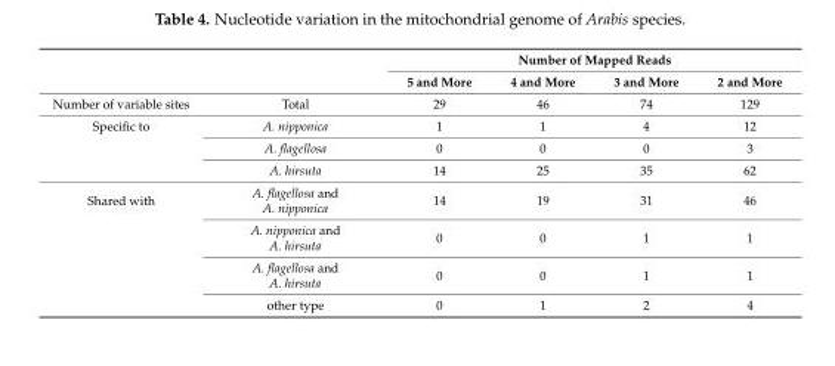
<table><thead><tr><td rowspan="2"></td><td rowspan="2"></td><td colspan="4">Number of Mapped Reads</td></tr><tr><td>5 and More</td><td>4 and More</td><td>3 and More</td><td>2 and More</td></tr></thead><tbody><tr><td>Number of variable sites</td><td>Total</td><td>29</td><td>46</td><td>74</td><td>129</td></tr><tr><td rowspan="3">Specific to</td><td>A. nipponica</td><td>1</td><td>1</td><td>4</td><td>12</td></tr><tr><td>A. flagellosa</td><td>0</td><td>0</td><td>0</td><td>3</td></tr><tr><td>A. hirsuta</td><td>14</td><td>25</td><td>35</td><td>62</td></tr><tr><td rowspan="4">Shared with</td><td>A. flagellosa and A. nipponica</td><td>14</td><td>19</td><td>31</td><td>46</td></tr><tr><td>A. nipponica and A. hirsuta</td><td>0</td><td>0</td><td>1</td><td>1</td></tr><tr><td>A. flagellosa and A. hirsuta</td><td>0</td><td>0</td><td>1</td><td>1</td></tr><tr><td>other type</td><td>0</td><td>1</td><td>2</td><td>4</td></tr></tbody></table>